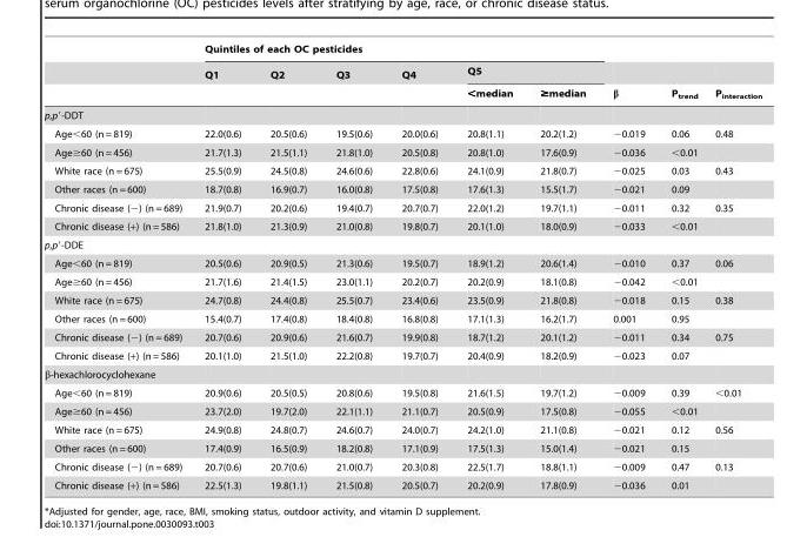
<table><thead><tr><td rowspan="3"></td><td colspan="6">Quintiles of each OC pesticides</td><td rowspan="3">β</td><td rowspan="3">P<sub>trend</sub></td><td rowspan="3">P<sub>interaction</sub></td></tr><tr><td rowspan="2">Q1</td><td rowspan="2">Q2</td><td rowspan="2">Q3</td><td rowspan="2">Q4</td><td colspan="2">Q5</td></tr><tr><td>&lt;median</td><td>≥median</td></tr></thead><tbody><tr><td colspan="10">p,p′-DDT</td></tr><tr><td>Age&lt;60 (n = 819)</td><td>22.0(0.6)</td><td>20.5(0.6)</td><td>19.5(0.6)</td><td>20.0(0.6)</td><td>20.8(1.1)</td><td>20.2(1.2)</td><td>−0.019</td><td>0.06</td><td>0.48</td></tr><tr><td>Age≥60 (n = 456)</td><td>21.7(1.3)</td><td>21.5(1.1)</td><td>21.8(1.0)</td><td>20.5(0.8)</td><td>20.8(1.0)</td><td>17.6(0.9)</td><td>−0.036</td><td>&lt;0.01</td><td></td></tr><tr><td>White race (n = 675)</td><td>25.5(0.9)</td><td>24.5(0.8)</td><td>24.6(0.6)</td><td>22.8(0.6)</td><td>24.1(0.9)</td><td>21.8(0.7)</td><td>−0.025</td><td>0.03</td><td>0.43</td></tr><tr><td>Other races (n = 600)</td><td>18.7(0.8)</td><td>16.9(0.7)</td><td>16.0(0.8)</td><td>17.5(0.8)</td><td>17.6(1.3)</td><td>15.5(1.7)</td><td>−0.021</td><td>0.09</td><td></td></tr><tr><td>Chronic disease (−) (n = 689)</td><td>21.9(0.7)</td><td>20.2(0.6)</td><td>19.4(0.7)</td><td>20.7(0.7)</td><td>22.0(1.2)</td><td>19.7(1.1)</td><td>−0.011</td><td>0.32</td><td>0.35</td></tr><tr><td>Chronic disease (+) (n = 586)</td><td>21.8(1.0)</td><td>21.3(0.9)</td><td>21.0(0.8)</td><td>19.8(0.7)</td><td>20.1(1.0)</td><td>18.0(0.9)</td><td>−0.033</td><td>&lt;0.01</td><td></td></tr><tr><td colspan="10">p,p′-DDE</td></tr><tr><td>Age&lt;60 (n = 819)</td><td>20.5(0.6)</td><td>20.9(0.5)</td><td>21.3(0.6)</td><td>19.5(0.7)</td><td>18.9(1.2)</td><td>20.6(1.4)</td><td>−0.010</td><td>0.37</td><td>0.06</td></tr><tr><td>Age≥60 (n = 456)</td><td>21.7(1.6)</td><td>21.4(1.5)</td><td>23.0(1.1)</td><td>20.2(0.7)</td><td>20.2(0.9)</td><td>18.1(0.8)</td><td>−0.042</td><td>&lt;0.01</td><td></td></tr><tr><td>White race (n = 675)</td><td>24.7(0.8)</td><td>24.4(0.8)</td><td>25.5(0.7)</td><td>23.4(0.6)</td><td>23.5(0.9)</td><td>21.8(0.8)</td><td>−0.018</td><td>0.15</td><td>0.38</td></tr><tr><td>Other races (n = 600)</td><td>15.4(0.7)</td><td>17.4(0.8)</td><td>18.4(0.8)</td><td>16.8(0.8)</td><td>17.1(1.3)</td><td>16.2(1.7)</td><td>0.001</td><td>0.95</td><td></td></tr><tr><td>Chronic disease (−) (n = 689)</td><td>20.7(0.6)</td><td>20.9(0.6)</td><td>21.6(0.7)</td><td>19.9(0.8)</td><td>18.7(1.2)</td><td>20.1(1.2)</td><td>−0.011</td><td>0.34</td><td>0.75</td></tr><tr><td>Chronic disease (+) (n = 586)</td><td>20.1(1.0)</td><td>21.5(1.0)</td><td>22.2(0.8)</td><td>19.7(0.7)</td><td>20.4(0.9)</td><td>18.2(0.9)</td><td>−0.023</td><td>0.07</td><td></td></tr><tr><td colspan="10">β-hexachlorocyclohexane</td></tr><tr><td>Age&lt;60 (n = 819)</td><td>20.9(0.6)</td><td>20.5(0.5)</td><td>20.8(0.6)</td><td>19.5(0.8)</td><td>21.6(1.5)</td><td>19.7(1.2)</td><td>−0.009</td><td>0.39</td><td>&lt;0.01</td></tr><tr><td>Age≥60 (n = 456)</td><td>23.7(2.0)</td><td>19.7(2.0)</td><td>22.1(1.1)</td><td>21.1(0.7)</td><td>20.5(0.9)</td><td>17.5(0.8)</td><td>−0.055</td><td>&lt;0.01</td><td></td></tr><tr><td>White race (n = 675)</td><td>24.9(0.8)</td><td>24.8(0.7)</td><td>24.6(0.7)</td><td>24.0(0.7)</td><td>24.2(1.0)</td><td>21.1(0.8)</td><td>−0.021</td><td>0.12</td><td>0.56</td></tr><tr><td>Other races (n = 600)</td><td>17.4(0.9)</td><td>16.5(0.9)</td><td>18.2(0.8)</td><td>17.1(0.9)</td><td>17.5(1.3)</td><td>15.0(1.4)</td><td>−0.021</td><td>0.15</td><td></td></tr><tr><td>Chronic disease (−) (n = 689)</td><td>20.7(0.6)</td><td>20.7(0.6)</td><td>21.0(0.7)</td><td>20.3(0.8)</td><td>22.5(1.7)</td><td>18.8(1.1)</td><td>−0.009</td><td>0.47</td><td>0.13</td></tr><tr><td>Chronic disease (+) (n = 586)</td><td>22.5(1.3)</td><td>19.8(1.1)</td><td>21.5(0.8)</td><td>20.5(0.7)</td><td>20.2(0.9)</td><td>17.8(0.9)</td><td>−0.036</td><td>0.01</td><td></td></tr></tbody></table>